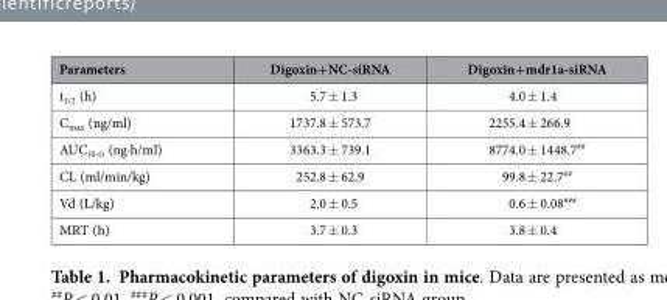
<table><thead><tr><td>Parameters</td><td>Digoxin+NC-siRNA</td><td>Digoxin+mdr1a-siRNA</td></tr></thead><tbody><tr><td>t<sub>1/2</sub> (h)</td><td>5.7 ± 1.3</td><td>4.0 ± 1.4</td></tr><tr><td>C<sub>max</sub> (ng/ml)</td><td>1737.8 ± 573.7</td><td>2255.4 ± 266.9</td></tr><tr><td>AUC<sub>(0-t)</sub> (ng·h/ml)</td><td>3363.3 ± 739.1</td><td>8774.0 ± 1448.7<sup>##</sup></td></tr><tr><td>CL (ml/min/kg)</td><td>252.8 ± 62.9</td><td>99.8 ± 22.7<sup>##</sup></td></tr><tr><td>Vd (L/kg)</td><td>2.0 ± 0.5</td><td>0.6 ± 0.08<sup>###</sup></td></tr><tr><td>MRT (h)</td><td>3.7 ± 0.3</td><td>3.8 ± 0.4</td></tr></tbody></table>